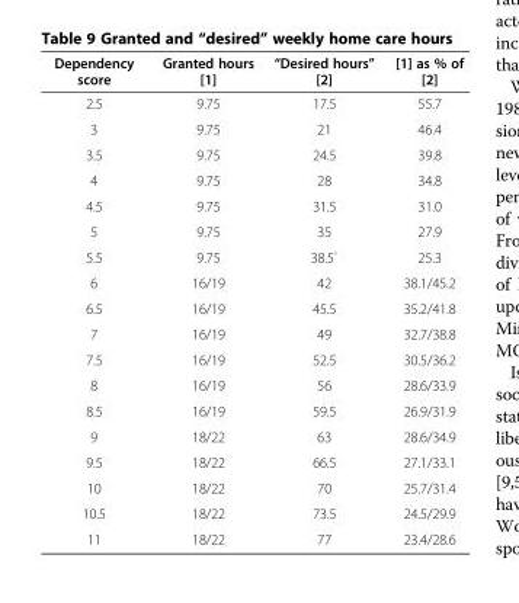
<table><thead><tr><td>Dependency score</td><td>Granted hours [1]</td><td>“Desired hours” [2]</td><td>[1] as % of [2]</td></tr></thead><tbody><tr><td>2.5</td><td>9.75</td><td>17.5</td><td>55.7</td></tr><tr><td>3</td><td>9.75</td><td>21</td><td>46.4</td></tr><tr><td>3.5</td><td>9.75</td><td>24.5</td><td>39.8</td></tr><tr><td>4</td><td>9.75</td><td>28</td><td>34.8</td></tr><tr><td>4.5</td><td>9.75</td><td>31.5</td><td>31.0</td></tr><tr><td>5</td><td>9.75</td><td>35</td><td>27.9</td></tr><tr><td>5.5</td><td>9.75</td><td>38.5`</td><td>25.3</td></tr><tr><td>6</td><td>16/19</td><td>42</td><td>38.1/45.2</td></tr><tr><td>6.5</td><td>16/19</td><td>45.5</td><td>35.2/41.8</td></tr><tr><td>7</td><td>16/19</td><td>49</td><td>32.7/38.8</td></tr><tr><td>7.5</td><td>16/19</td><td>52.5</td><td>30.5/36.2</td></tr><tr><td>8</td><td>16/19</td><td>56</td><td>28.6/33.9</td></tr><tr><td>8.5</td><td>16/19</td><td>59.5</td><td>26.9/31.9</td></tr><tr><td>9</td><td>18/22</td><td>63</td><td>28.6/34.9</td></tr><tr><td>9.5</td><td>18/22</td><td>66.5</td><td>27.1/33.1</td></tr><tr><td>10</td><td>18/22</td><td>70</td><td>25.7/31.4</td></tr><tr><td>10.5</td><td>18/22</td><td>73.5</td><td>24.5/29.9</td></tr><tr><td>11</td><td>18/22</td><td>77</td><td>23.4/28.6</td></tr></tbody></table>